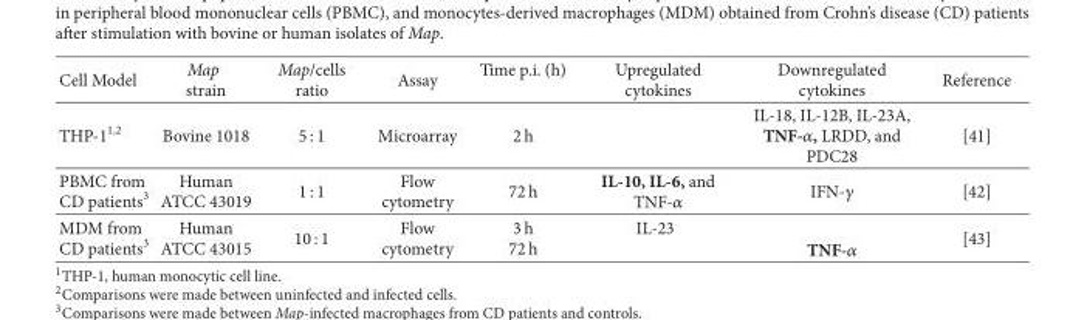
<table><thead><tr><td>Cell Model</td><td>Map strain</td><td>Map/cells ratio</td><td>Assay</td><td>Time p.i. (h)</td><td>Upregulated cytokines</td><td>Downregulated cytokines</td><td>Reference</td></tr></thead><tbody><tr><td>THP-11,2</td><td>Bovine 1018</td><td>5 : 1</td><td>Microarray</td><td>2 h</td><td></td><td>IL-18, IL-12B, IL-23A, TNF-𝛼𝛼, LRDD, and PDC28</td><td>[41]</td></tr><tr><td>PBMC from CD patients3</td><td>Human ATCC 43019</td><td>1 : 1</td><td>Flow cytometry</td><td>72 h</td><td>IL-10, IL-6, and TNF-𝛼𝛼</td><td>IFN-𝛾𝛾</td><td>[42]</td></tr><tr><td>MDM from CD patients3</td><td>Human ATCC 43015</td><td>10 : 1</td><td>Flow cytometry</td><td>3 h 72 h</td><td>IL-23</td><td>TNF-𝛼𝛼</td><td>[43]</td></tr></tbody></table>